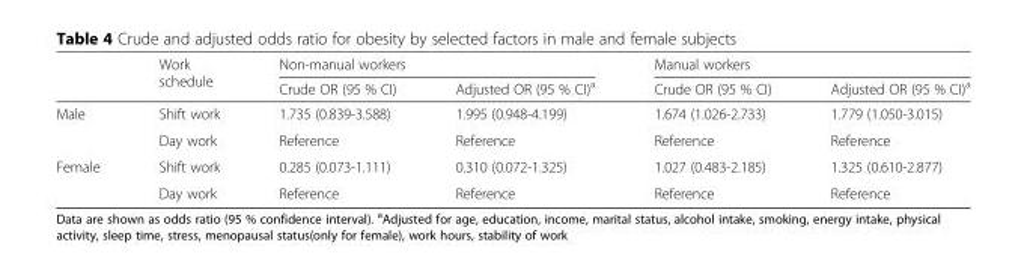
<table><thead><tr><td rowspan="2"></td><td rowspan="2">Work schedule</td><td colspan="2">Non-manual workers</td><td colspan="2">Manual workers</td></tr><tr><td>Crude OR (95 % CI)</td><td>Adjusted OR (95 % CI)<sup>a</sup></td><td>Crude OR (95 % CI)</td><td>Adjusted OR (95 % CI)<sup>a</sup></td></tr></thead><tbody><tr><td rowspan="2">Male</td><td>Shift work</td><td>1.735 (0.839-3.588)</td><td>1.995 (0.948-4.199)</td><td>1.674 (1.026-2.733)</td><td>1.779 (1.050-3.015)</td></tr><tr><td>Day work</td><td>Reference</td><td>Reference</td><td>Reference</td><td>Reference</td></tr><tr><td rowspan="2">Female</td><td>Shift work</td><td>0.285 (0.073-1.111)</td><td>0.310 (0.072-1.325)</td><td>1.027 (0.483-2.185)</td><td>1.325 (0.610-2.877)</td></tr><tr><td>Day work</td><td>Reference</td><td>Reference</td><td>Reference</td><td>Reference</td></tr></tbody></table>